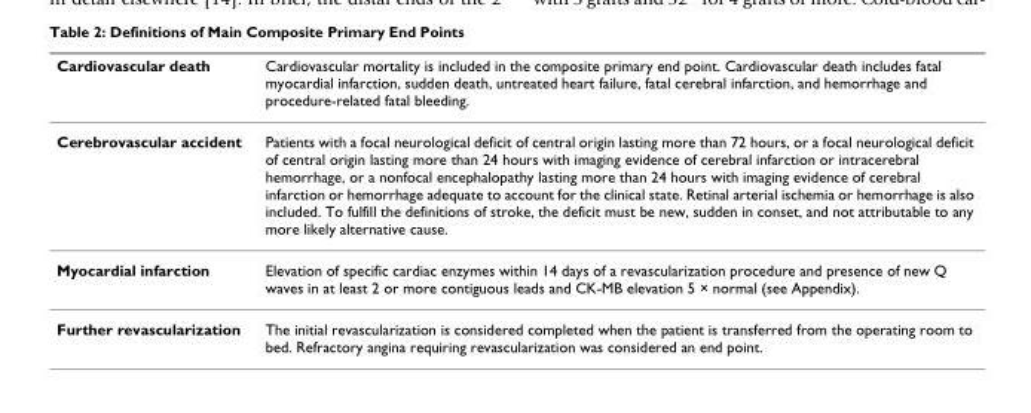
<table><tbody><tr><td>Cardiovascular death</td><td>Cardiovascular mortality is included in the composite primary end point. Cardiovascular death includes fatal myocardial infarction, sudden death, untreated heart failure, fatal cerebral infarction, and hemorrhage and procedure-related fatal bleeding.</td></tr><tr><td>Cerebrovascular accident</td><td>Patients with a focal neurological deficit of central origin lasting more than 72 hours, or a focal neurological deficit of central origin lasting more than 24 hours with imaging evidence of cerebral infarction or intracerebral hemorrhage, or a nonfocal encephalopathy lasting more than 24 hours with imaging evidence of cerebral infarction or hemorrhage adequate to account for the clinical state. Retinal arterial ischemia or hemorrhage is also included. To fulfill the definitions of stroke, the deficit must be new, sudden in conset, and not attributable to any more likely alternative cause.</td></tr><tr><td>Myocardial infarction</td><td>Elevation of specific cardiac enzymes within 14 days of a revascularization procedure and presence of new Q waves in at least 2 or more contiguous leads and CK-MB elevation 5 × normal (see Appendix).</td></tr><tr><td>Further revascularization</td><td>The initial revascularization is considered completed when the patient is transferred from the operating room to bed. Refractory angina requiring revascularization was considered an end point.</td></tr></tbody></table>